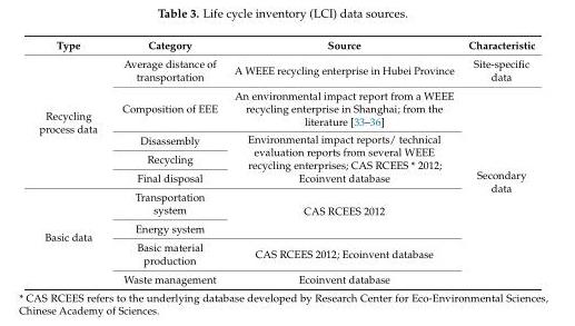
<table><thead><tr><td>Type</td><td>Category</td><td>Source</td><td>Characteristic</td></tr></thead><tbody><tr><td rowspan="5">Recycling process data</td><td>Average distance of transportation</td><td>A WEEE recycling enterprise in Hubei Province</td><td>Site-specific data</td></tr><tr><td>Composition of EEE</td><td>An environmental impact report from a WEEE recycling enterprise in Shanghai; from the literature [33–36]</td><td rowspan="8">Secondary data</td></tr><tr><td>Disassembly</td><td rowspan="3">Environmental impact reports/ technical evaluation reports from several WEEE recycling enterprises; CAS RCEES * 2012; Ecoinvent database</td></tr><tr><td>Recycling</td></tr><tr><td>Final disposal</td></tr><tr><td rowspan="4">Basic data</td><td>Transportation system</td><td rowspan="2">CAS RCEES 2012</td></tr><tr><td>Energy system</td></tr><tr><td>Basic material production</td><td>CAS RCEES 2012; Ecoinvent database</td></tr><tr><td>Waste management</td><td>Ecoinvent database</td></tr></tbody></table>